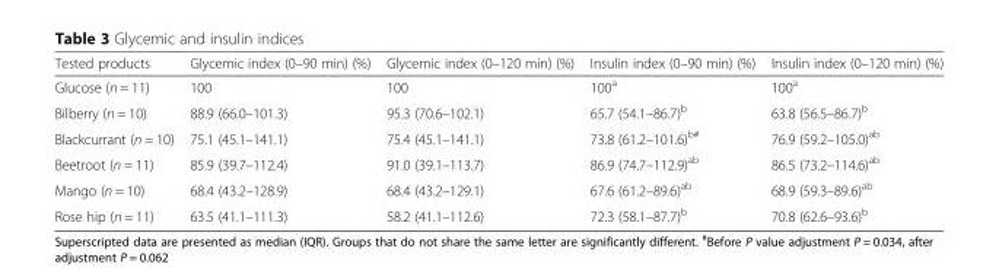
<table><thead><tr><td>Tested products</td><td>Glycemic index (0–90 min) (%)</td><td>Glycemic index (0–120 min) (%)</td><td>Insulin index (0–90 min) (%)</td><td>Insulin index (0–120 min) (%)</td></tr></thead><tbody><tr><td>Glucose (n = 11)</td><td>100</td><td>100</td><td>100<sup>a</sup></td><td>100<sup>a</sup></td></tr><tr><td>Bilberry (n = 10)</td><td>88.9 (66.0–101.3)</td><td>95.3 (70.6–102.1)</td><td>65.7 (54.1–86.7)<sup>b</sup></td><td>63.8 (56.5–86.7)<sup>b</sup></td></tr><tr><td>Blackcurrant (n = 10)</td><td>75.1 (45.1–141.1)</td><td>75.4 (45.1–141.1)</td><td>73.8 (61.2–101.6)<sup>b#</sup></td><td>76.9 (59.2–105.0)<sup>ab</sup></td></tr><tr><td>Beetroot (n = 11)</td><td>85.9 (39.7–112.4)</td><td>91.0 (39.1–113.7)</td><td>86.9 (74.7–112.9)<sup>ab</sup></td><td>86.5 (73.2–114.6)<sup>ab</sup></td></tr><tr><td>Mango (n = 10)</td><td>68.4 (43.2–128.9)</td><td>68.4 (43.2–129.1)</td><td>67.6 (61.2–89.6)<sup>ab</sup></td><td>68.9 (59.3–89.6)<sup>ab</sup></td></tr><tr><td>Rose hip (n = 11)</td><td>63.5 (41.1–111.3)</td><td>58.2 (41.1–112.6)</td><td>72.3 (58.1–87.7)<sup>b</sup></td><td>70.8 (62.6–93.6)<sup>b</sup></td></tr></tbody></table>